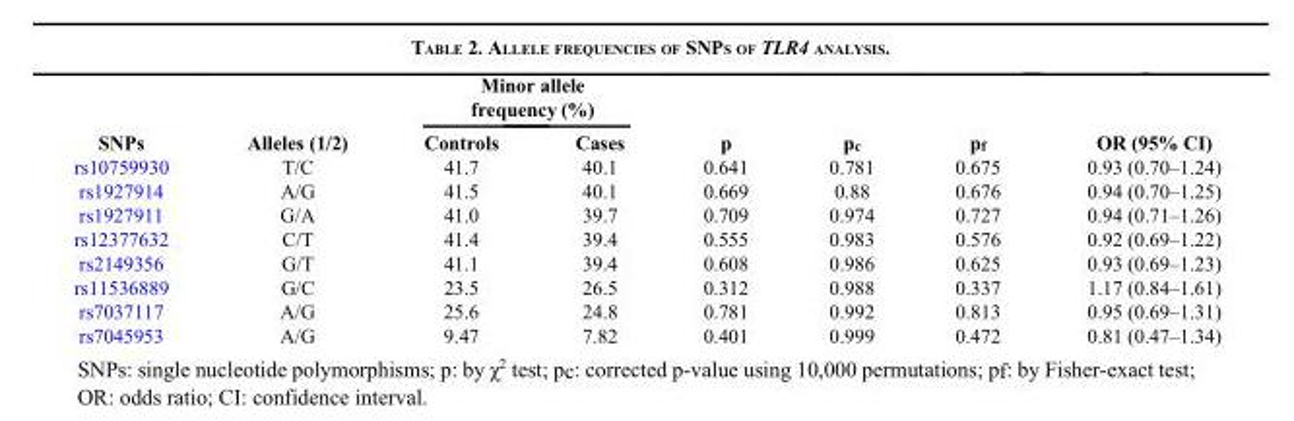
<table><thead><tr><td rowspan="2">SNPs</td><td rowspan="2">Alleles (1/2)</td><td colspan="2">Minor allele frequency (%)</td><td rowspan="2">p</td><td rowspan="2">p<sub>c</sub></td><td rowspan="2">p<sub>f</sub></td><td rowspan="2">OR (95% CI)</td></tr><tr><td>Controls</td><td>Cases</td></tr></thead><tbody><tr><td>rs10759930</td><td>T/C</td><td>41.7</td><td>40.1</td><td>0.641</td><td>0.781</td><td>0.675</td><td>0.93 (0.70–1.24)</td></tr><tr><td>rs1927914</td><td>A/G</td><td>41.5</td><td>40.1</td><td>0.669</td><td>0.88</td><td>0.676</td><td>0.94 (0.70–1.25)</td></tr><tr><td>rs1927911</td><td>G/A</td><td>41.0</td><td>39.7</td><td>0.709</td><td>0.974</td><td>0.727</td><td>0.94 (0.71–1.26)</td></tr><tr><td>rs12377632</td><td>C/T</td><td>41.4</td><td>39.4</td><td>0.555</td><td>0.983</td><td>0.576</td><td>0.92 (0.69–1.22)</td></tr><tr><td>rs2149356</td><td>G/T</td><td>41.1</td><td>39.4</td><td>0.608</td><td>0.986</td><td>0.625</td><td>0.93 (0.69–1.23)</td></tr><tr><td>rs11536889</td><td>G/C</td><td>23.5</td><td>26.5</td><td>0.312</td><td>0.988</td><td>0.337</td><td>1.17 (0.84–1.61)</td></tr><tr><td>rs7037117</td><td>A/G</td><td>25.6</td><td>24.8</td><td>0.781</td><td>0.992</td><td>0.813</td><td>0.95 (0.69–1.31)</td></tr><tr><td>rs7045953</td><td>A/G</td><td>9.47</td><td>7.82</td><td>0.401</td><td>0.999</td><td>0.472</td><td>0.81 (0.47–1.34)</td></tr></tbody></table>